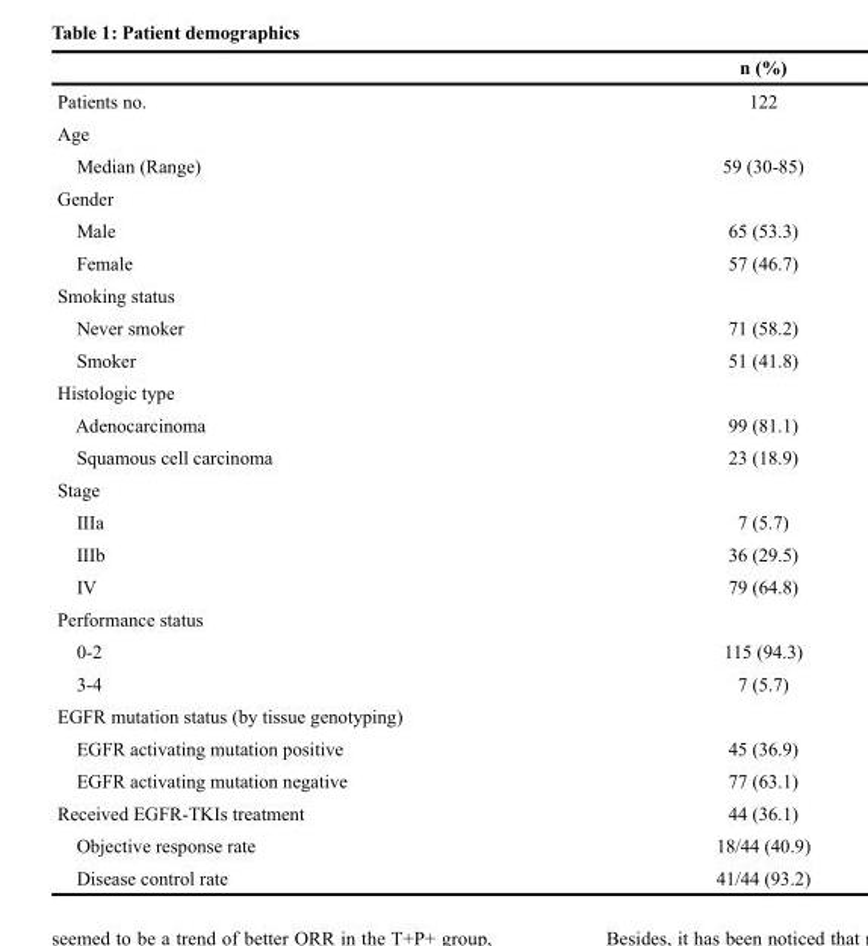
<table><thead><tr><td></td><td>n (%)</td></tr></thead><tbody><tr><td>Patients no.</td><td>122</td></tr><tr><td colspan="2">Age</td></tr><tr><td>Median (Range)</td><td>59 (30-85)</td></tr><tr><td colspan="2">Gender</td></tr><tr><td>Male</td><td>65 (53.3)</td></tr><tr><td>Female</td><td>57 (46.7)</td></tr><tr><td colspan="2">Smoking status</td></tr><tr><td>Never smoker</td><td>71 (58.2)</td></tr><tr><td>Smoker</td><td>51 (41.8)</td></tr><tr><td colspan="2">Histologic type</td></tr><tr><td>Adenocarcinoma</td><td>99 (81.1)</td></tr><tr><td>Squamous cell carcinoma</td><td>23 (18.9)</td></tr><tr><td colspan="2">Stage</td></tr><tr><td>IIIa</td><td>7 (5.7)</td></tr><tr><td>IIIb</td><td>36 (29.5)</td></tr><tr><td>IV</td><td>79 (64.8)</td></tr><tr><td colspan="2">Performance status</td></tr><tr><td>0-2</td><td>115 (94.3)</td></tr><tr><td>3-4</td><td>7 (5.7)</td></tr><tr><td colspan="2">EGFR mutation status (by tissue genotyping)</td></tr><tr><td>EGFR activating mutation positive</td><td>45 (36.9)</td></tr><tr><td>EGFR activating mutation negative</td><td>77 (63.1)</td></tr><tr><td>Received EGFR-TKIs treatment</td><td>44 (36.1)</td></tr><tr><td>Objective response rate</td><td>18/44 (40.9)</td></tr><tr><td>Disease control rate</td><td>41/44 (93.2)</td></tr></tbody></table>